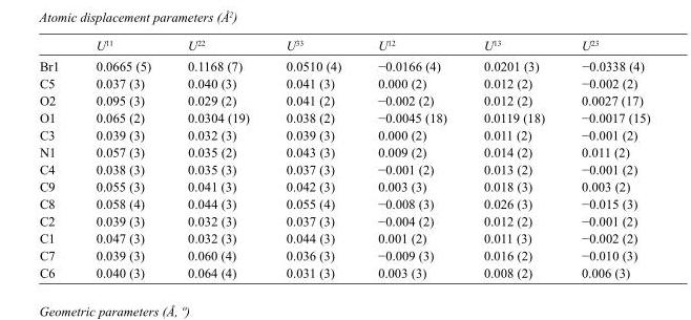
<table><thead><tr><td></td><td>U<sup>11</sup></td><td>U<sup>22</sup></td><td>U<sup>33</sup></td><td>U<sup>12</sup></td><td>U<sup>13</sup></td><td>U<sup>23</sup></td></tr></thead><tbody><tr><td>Br1</td><td>0.0665 (5)</td><td>0.1168 (7)</td><td>0.0510 (4)</td><td>−0.0166 (4)</td><td>0.0201 (3)</td><td>−0.0338 (4)</td></tr><tr><td>C5</td><td>0.037 (3)</td><td>0.040 (3)</td><td>0.041 (3)</td><td>0.000 (2)</td><td>0.012 (2)</td><td>−0.002 (2)</td></tr><tr><td>O2</td><td>0.095 (3)</td><td>0.029 (2)</td><td>0.041 (2)</td><td>−0.002 (2)</td><td>0.012 (2)</td><td>0.0027 (17)</td></tr><tr><td>O1</td><td>0.065 (2)</td><td>0.0304 (19)</td><td>0.038 (2)</td><td>−0.0045 (18)</td><td>0.0119 (18)</td><td>−0.0017 (15)</td></tr><tr><td>C3</td><td>0.039 (3)</td><td>0.032 (3)</td><td>0.039 (3)</td><td>0.000 (2)</td><td>0.011 (2)</td><td>−0.001 (2)</td></tr><tr><td>N1</td><td>0.057 (3)</td><td>0.035 (2)</td><td>0.043 (3)</td><td>0.009 (2)</td><td>0.014 (2)</td><td>0.011 (2)</td></tr><tr><td>C4</td><td>0.038 (3)</td><td>0.035 (3)</td><td>0.037 (3)</td><td>−0.001 (2)</td><td>0.013 (2)</td><td>−0.001 (2)</td></tr><tr><td>C9</td><td>0.055 (3)</td><td>0.041 (3)</td><td>0.042 (3)</td><td>0.003 (3)</td><td>0.018 (3)</td><td>0.003 (2)</td></tr><tr><td>C8</td><td>0.058 (4)</td><td>0.044 (3)</td><td>0.055 (4)</td><td>−0.008 (3)</td><td>0.026 (3)</td><td>−0.015 (3)</td></tr><tr><td>C2</td><td>0.039 (3)</td><td>0.032 (3)</td><td>0.037 (3)</td><td>−0.004 (2)</td><td>0.012 (2)</td><td>−0.001 (2)</td></tr><tr><td>C1</td><td>0.047 (3)</td><td>0.032 (3)</td><td>0.044 (3)</td><td>0.001 (2)</td><td>0.011 (3)</td><td>−0.002 (2)</td></tr><tr><td>C7</td><td>0.039 (3)</td><td>0.060 (4)</td><td>0.036 (3)</td><td>−0.009 (3)</td><td>0.016 (2)</td><td>−0.010 (3)</td></tr><tr><td>C6</td><td>0.040 (3)</td><td>0.064 (4)</td><td>0.031 (3)</td><td>0.003 (3)</td><td>0.008 (2)</td><td>0.006 (3)</td></tr></tbody></table>